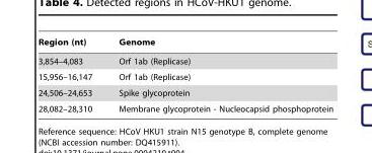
<table><thead><tr><td>Region (nt)</td><td>Genome</td></tr></thead><tbody><tr><td>3,854–4,083</td><td>Orf 1ab (Replicase)</td></tr><tr><td>15,956–16,147</td><td>Orf 1ab (Replicase)</td></tr><tr><td>24,506–24,653</td><td>Spike glycoprotein</td></tr><tr><td>28,082–28,310</td><td>Membrane glycoprotein - Nucleocapsid phosphoprotein</td></tr></tbody></table>